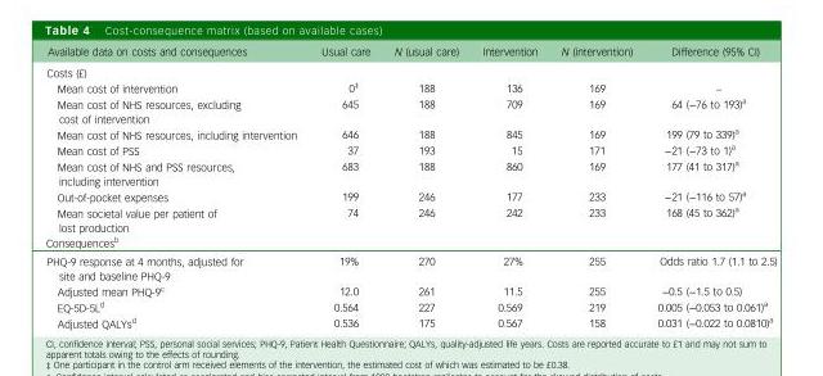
<table><thead><tr><td>Available data on costs and consequences</td><td>Usual care</td><td>N (usual care)</td><td>Intervention</td><td>N (intervention)</td><td>Difference (95% CI)</td></tr></thead><tbody><tr><td colspan="6">Costs (£)</td></tr><tr><td>Mean cost of intervention</td><td>0<sup>‡</sup></td><td>188</td><td>136</td><td>169</td><td>–</td></tr><tr><td>Mean cost of NHS resources, excluding cost of intervention</td><td>645</td><td>188</td><td>709</td><td>169</td><td>64 (−76 to 193)<sup>a</sup></td></tr><tr><td>Mean cost of NHS resources, including intervention</td><td>646</td><td>188</td><td>845</td><td>169</td><td>199 (79 to 339)<sup>a</sup></td></tr><tr><td>Mean cost of PSS</td><td>37</td><td>193</td><td>15</td><td>171</td><td>−21 (−73 to 1)<sup>a</sup></td></tr><tr><td>Mean cost of NHS and PSS resources, including intervention</td><td>683</td><td>188</td><td>860</td><td>169</td><td>177 (41 to 317)<sup>a</sup></td></tr><tr><td>Out-of-pocket expenses</td><td>199</td><td>246</td><td>177</td><td>233</td><td>−21 (−116 to 57)<sup>a</sup></td></tr><tr><td>Mean societal value per patient of lost production</td><td>74</td><td>246</td><td>242</td><td>233</td><td>168 (45 to 362)<sup>a</sup></td></tr><tr><td colspan="6">Consequences<sup>b</sup></td></tr><tr><td>PHQ-9 response at 4 months, adjusted for site and baseline PHQ-9</td><td>19%</td><td>270</td><td>27%</td><td>255</td><td>Odds ratio 1.7 (1.1 to 2.5)</td></tr><tr><td>Adjusted mean PHQ-9<sup>c</sup></td><td>12.0</td><td>261</td><td>11.5</td><td>255</td><td>−0.5 (−1.5 to 0.5)</td></tr><tr><td>EQ-5D-5L<sup>d</sup></td><td>0.564</td><td>227</td><td>0.569</td><td>219</td><td>0.005 (−0.053 to 0.061)<sup>a</sup></td></tr><tr><td>Adjusted QALYs<sup>d</sup></td><td>0.536</td><td>175</td><td>0.567</td><td>158</td><td>0.031 (−0.022 to 0.0810)<sup>a</sup></td></tr></tbody></table>